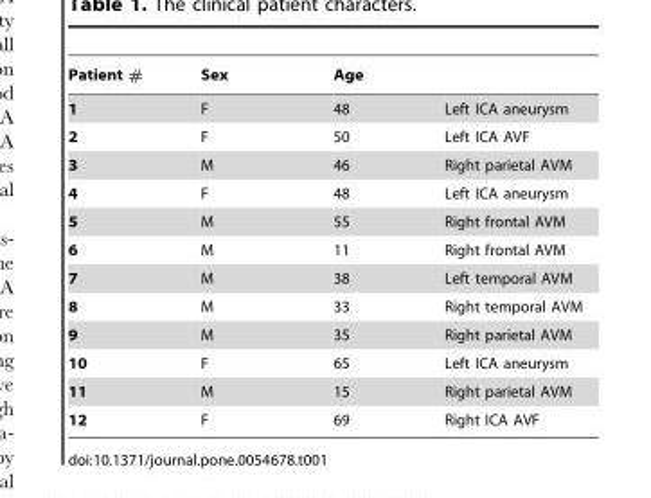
<table><thead><tr><td>Patient #</td><td>Sex</td><td>Age</td><td></td></tr></thead><tbody><tr><td>1</td><td>F</td><td>48</td><td>Left ICA aneurysm</td></tr><tr><td>2</td><td>F</td><td>50</td><td>Left ICA AVF</td></tr><tr><td>3</td><td>M</td><td>46</td><td>Right parietal AVM</td></tr><tr><td>4</td><td>F</td><td>48</td><td>Left ICA aneurysm</td></tr><tr><td>5</td><td>M</td><td>55</td><td>Right frontal AVM</td></tr><tr><td>6</td><td>M</td><td>11</td><td>Right frontal AVM</td></tr><tr><td>7</td><td>M</td><td>38</td><td>Left temporal AVM</td></tr><tr><td>8</td><td>M</td><td>33</td><td>Right temporal AVM</td></tr><tr><td>9</td><td>M</td><td>35</td><td>Right parietal AVM</td></tr><tr><td>10</td><td>F</td><td>65</td><td>Left ICA aneurysm</td></tr><tr><td>11</td><td>M</td><td>15</td><td>Right parietal AVM</td></tr><tr><td>12</td><td>F</td><td>69</td><td>Right ICA AVF</td></tr></tbody></table>